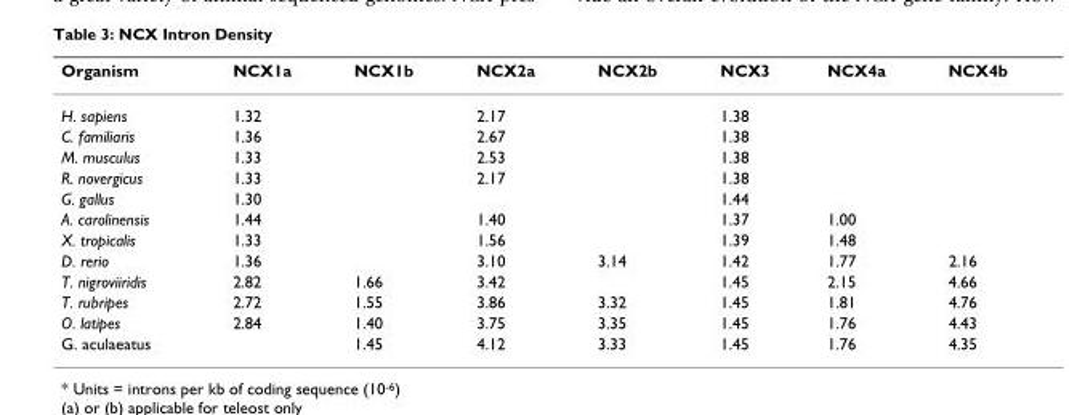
<table><thead><tr><td>Organism</td><td>NCX1a</td><td>NCX1b</td><td>NCX2a</td><td>NCX2b</td><td>NCX3</td><td>NCX4a</td><td>NCX4b</td></tr></thead><tbody><tr><td>H. sapiens</td><td>1.32</td><td></td><td>2.17</td><td></td><td>1.38</td><td></td><td></td></tr><tr><td>C. familiaris</td><td>1.36</td><td></td><td>2.67</td><td></td><td>1.38</td><td></td><td></td></tr><tr><td>M. musculus</td><td>1.33</td><td></td><td>2.53</td><td></td><td>1.38</td><td></td><td></td></tr><tr><td>R. novergicus</td><td>1.33</td><td></td><td>2.17</td><td></td><td>1.38</td><td></td><td></td></tr><tr><td>G. gallus</td><td>1.30</td><td></td><td></td><td></td><td>1.44</td><td></td><td></td></tr><tr><td>A. carolinensis</td><td>1.44</td><td></td><td>1.40</td><td></td><td>1.37</td><td>1.00</td><td></td></tr><tr><td>X. tropicalis</td><td>1.33</td><td></td><td>1.56</td><td></td><td>1.39</td><td>1.48</td><td></td></tr><tr><td>D. rerio</td><td>1.36</td><td></td><td>3.10</td><td>3.14</td><td>1.42</td><td>1.77</td><td>2.16</td></tr><tr><td>T. nigroviiridis</td><td>2.82</td><td>1.66</td><td>3.42</td><td></td><td>1.45</td><td>2.15</td><td>4.66</td></tr><tr><td>T. rubripes</td><td>2.72</td><td>1.55</td><td>3.86</td><td>3.32</td><td>1.45</td><td>1.81</td><td>4.76</td></tr><tr><td>O. latipes</td><td>2.84</td><td>1.40</td><td>3.75</td><td>3.35</td><td>1.45</td><td>1.76</td><td>4.43</td></tr><tr><td>G. aculaeatus</td><td></td><td>1.45</td><td>4.12</td><td>3.33</td><td>1.45</td><td>1.76</td><td>4.35</td></tr></tbody></table>